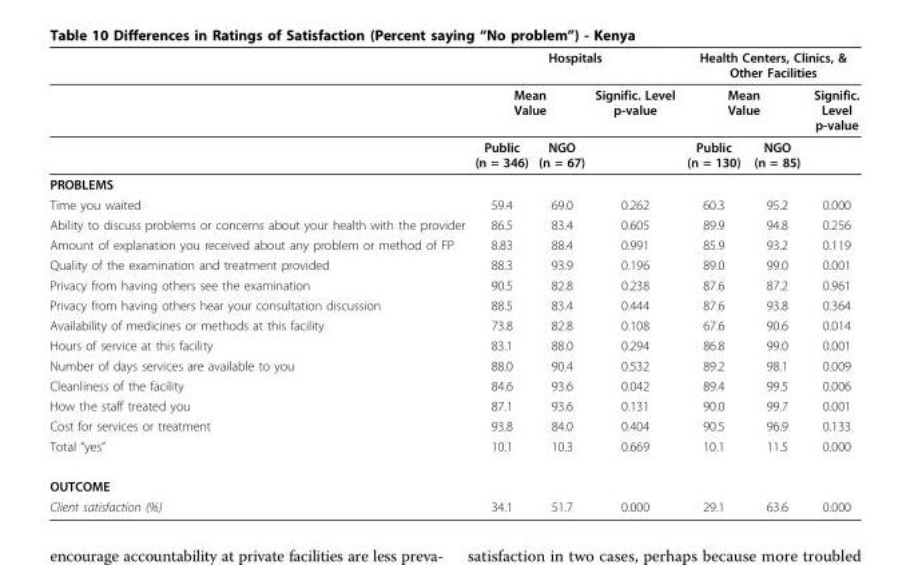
<table><thead><tr><td rowspan="3"></td><td colspan="3">Hospitals</td><td colspan="3">Health Centers, Clinics, &amp; Other Facilities</td></tr><tr><td colspan="2">Mean Value</td><td rowspan="2">Signific. Level p-value</td><td colspan="2">Mean Value</td><td rowspan="2">Signific. Level p-value</td></tr><tr><td>Public (n = 346)</td><td>NGO (n = 67)</td><td>Public (n = 130)</td><td>NGO (n = 85)</td></tr></thead><tbody><tr><td colspan="7">PROBLEMS</td></tr><tr><td>Time you waited</td><td>59.4</td><td>69.0</td><td>0.262</td><td>60.3</td><td>95.2</td><td>0.000</td></tr><tr><td>Ability to discuss problems or concerns about your health with the provider</td><td>86.5</td><td>83.4</td><td>0.605</td><td>89.9</td><td>94.8</td><td>0.256</td></tr><tr><td>Amount of explanation you received about any problem or method of FP</td><td>8.83</td><td>88.4</td><td>0.991</td><td>85.9</td><td>93.2</td><td>0.119</td></tr><tr><td>Quality of the examination and treatment provided</td><td>88.3</td><td>93.9</td><td>0.196</td><td>89.0</td><td>99.0</td><td>0.001</td></tr><tr><td>Privacy from having others see the examination</td><td>90.5</td><td>82.8</td><td>0.238</td><td>87.6</td><td>87.2</td><td>0.961</td></tr><tr><td>Privacy from having others hear your consultation discussion</td><td>88.5</td><td>83.4</td><td>0.444</td><td>87.6</td><td>93.8</td><td>0.364</td></tr><tr><td>Availability of medicines or methods at this facility</td><td>73.8</td><td>82.8</td><td>0.108</td><td>67.6</td><td>90.6</td><td>0.014</td></tr><tr><td>Hours of service at this facility</td><td>83.1</td><td>88.0</td><td>0.294</td><td>86.8</td><td>99.0</td><td>0.001</td></tr><tr><td>Number of days services are available to you</td><td>88.0</td><td>90.4</td><td>0.532</td><td>89.2</td><td>98.1</td><td>0.009</td></tr><tr><td>Cleanliness of the facility</td><td>84.6</td><td>93.6</td><td>0.042</td><td>89.4</td><td>99.5</td><td>0.006</td></tr><tr><td>How the staff treated you</td><td>87.1</td><td>93.6</td><td>0.131</td><td>90.0</td><td>99.7</td><td>0.001</td></tr><tr><td>Cost for services or treatment</td><td>93.8</td><td>84.0</td><td>0.404</td><td>90.5</td><td>96.9</td><td>0.133</td></tr><tr><td>Total “yes”</td><td>10.1</td><td>10.3</td><td>0.669</td><td>10.1</td><td>11.5</td><td>0.000</td></tr><tr><td colspan="7">OUTCOME</td></tr><tr><td>Client satisfaction (%)</td><td>34.1</td><td>51.7</td><td>0.000</td><td>29.1</td><td>63.6</td><td>0.000</td></tr></tbody></table>